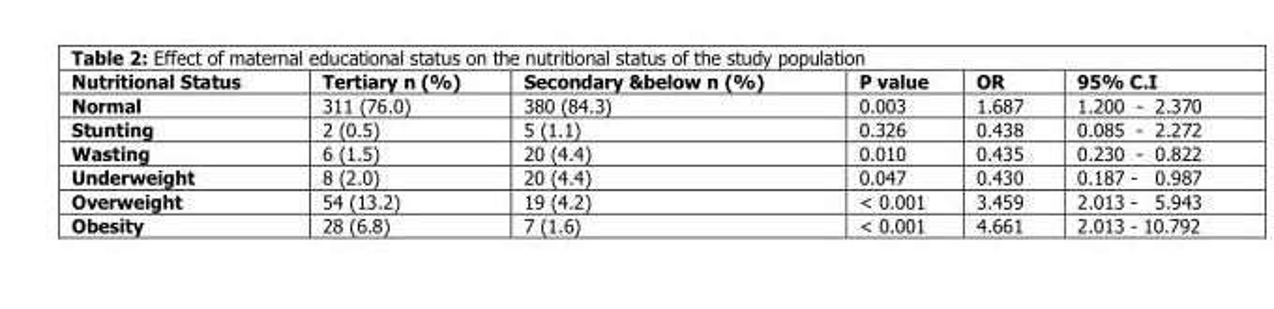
<table><thead><tr><td>Nutritional Status</td><td>Tertiary n (%)</td><td>Secondary &amp;below n (%)</td><td>P value</td><td>OR</td><td>95% C.I</td></tr></thead><tbody><tr><td>Normal</td><td>311 (76.0)</td><td>380 (84.3)</td><td>0.003</td><td>1.687</td><td>1.200 - 2.370</td></tr><tr><td>Stunting</td><td>2 (0.5)</td><td>5 (1.1)</td><td>0.326</td><td>0.438</td><td>0.085 - 2.272</td></tr><tr><td>Wasting</td><td>6 (1.5)</td><td>20 (4.4)</td><td>0.010</td><td>0.435</td><td>0.230 - 0.822</td></tr><tr><td>Underweight</td><td>8 (2.0)</td><td>20 (4.4)</td><td>0.047</td><td>0.430</td><td>0.187 - 0.987</td></tr><tr><td>Overweight</td><td>54 (13.2)</td><td>19 (4.2)</td><td>&lt; 0.001</td><td>3.459</td><td>2.013 - 5.943</td></tr><tr><td>Obesity</td><td>28 (6.8)</td><td>7 (1.6)</td><td>&lt; 0.001</td><td>4.661</td><td>2.013 - 10.792</td></tr></tbody></table>